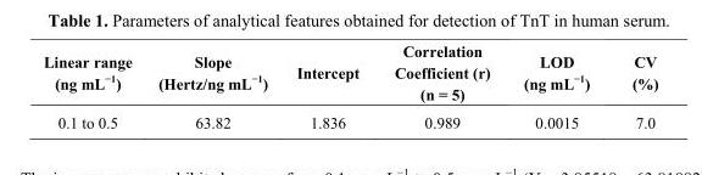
<table><thead><tr><td>Linear range (ng mL<sup>−1</sup>)</td><td>Slope (Hertz/ng mL<sup>−1</sup>)</td><td>Intercept</td><td>Correlation Coefficient (r) (n = 5)</td><td>LOD (ng mL<sup>−1</sup>)</td><td>CV (%)</td></tr></thead><tbody><tr><td>0.1 to 0.5</td><td>63.82</td><td>1.836</td><td>0.989</td><td>0.0015</td><td>7.0</td></tr></tbody></table>